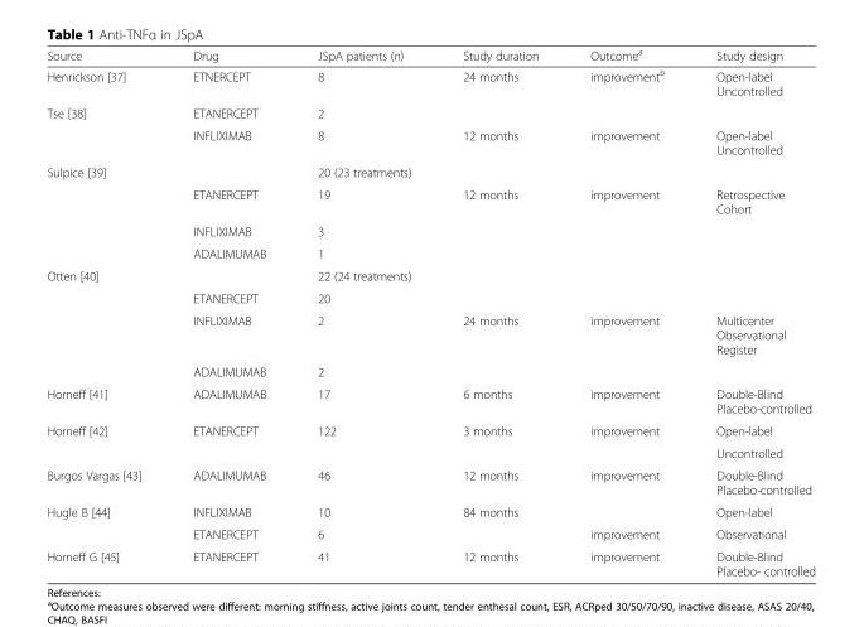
<table><thead><tr><td>Source</td><td>Drug</td><td>JSpA patients (n)</td><td>Study duration</td><td>Outcome<sup>a</sup></td><td>Study design</td></tr></thead><tbody><tr><td>Henrickson [37]</td><td>ETNERCEPT</td><td>8</td><td>24 months</td><td>improvement<sup>b</sup></td><td>Open-label Uncontrolled</td></tr><tr><td rowspan="2">Tse [38]</td><td>ETANERCEPT</td><td>2</td><td></td><td></td><td></td></tr><tr><td>INFLIXIMAB</td><td>8</td><td>12 months</td><td>improvement</td><td>Open-label Uncontrolled</td></tr><tr><td rowspan="4">Sulpice [39]</td><td></td><td>20 (23 treatments)</td><td></td><td></td><td></td></tr><tr><td>ETANERCEPT</td><td>19</td><td>12 months</td><td>improvement</td><td>Retrospective Cohort</td></tr><tr><td>INFLIXIMAB</td><td>3</td><td></td><td></td><td></td></tr><tr><td>ADALIMUMAB</td><td>1</td><td></td><td></td><td></td></tr><tr><td rowspan="4">Otten [40]</td><td></td><td>22 (24 treatments)</td><td></td><td></td><td></td></tr><tr><td>ETANERCEPT</td><td>20</td><td></td><td></td><td></td></tr><tr><td>INFLIXIMAB</td><td>2</td><td>24 months</td><td>improvement</td><td>Multicenter Observational Register</td></tr><tr><td>ADALIMUMAB</td><td>2</td><td></td><td></td><td></td></tr><tr><td>Horneff [41]</td><td>ADALIMUMAB</td><td>17</td><td>6 months</td><td>improvement</td><td>Double-Blind Placebo-controlled</td></tr><tr><td rowspan="2">Horneff [42]</td><td>ETANERCEPT</td><td>122</td><td>3 months</td><td>improvement</td><td>Open-label</td></tr><tr><td></td><td></td><td></td><td></td><td>Uncontrolled</td></tr><tr><td>Burgos Vargas [43]</td><td>ADALIMUMAB</td><td>46</td><td>12 months</td><td>improvement</td><td>Double-Blind Placebo-controlled</td></tr><tr><td rowspan="2">Hugle B [44]</td><td>INFLIXIMAB</td><td>10</td><td>84 months</td><td></td><td>Open-label</td></tr><tr><td>ETANERCEPT</td><td>6</td><td></td><td>improvement</td><td>Observational</td></tr><tr><td>Horneff G [45]</td><td>ETANERCEPT</td><td>41</td><td>12 months</td><td>improvement</td><td>Double-Blind Placebo- controlled</td></tr></tbody></table>